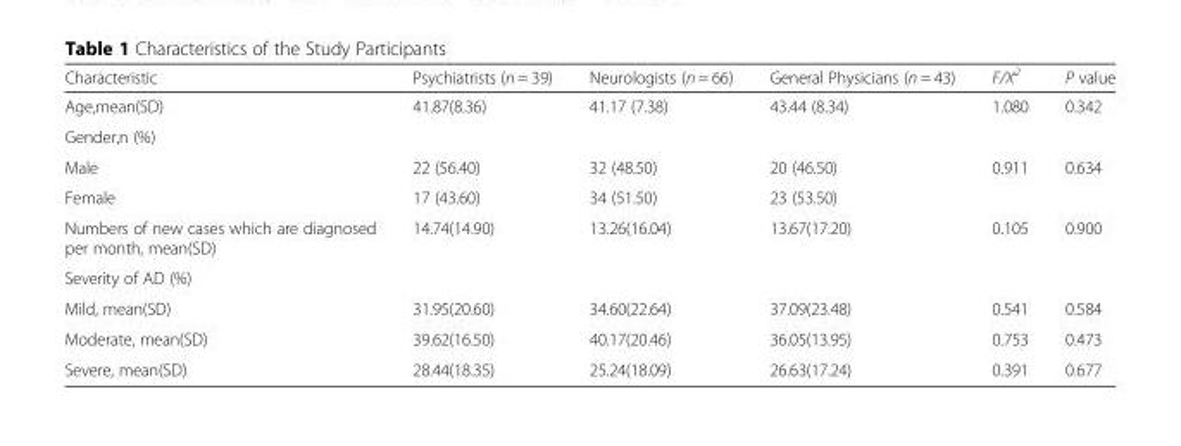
<table><thead><tr><td>Characteristic</td><td>Psychiatrists (n = 39)</td><td>Neurologists (n = 66)</td><td>General Physicians (n = 43)</td><td>F/X<sup>2</sup></td><td>P value</td></tr></thead><tbody><tr><td>Age,mean(SD)</td><td>41.87(8.36)</td><td>41.17 (7.38)</td><td>43.44 (8.34)</td><td>1.080</td><td>0.342</td></tr><tr><td colspan="6">Gender,n (%)</td></tr><tr><td>Male</td><td>22 (56.40)</td><td>32 (48.50)</td><td>20 (46.50)</td><td rowspan="2">0.911</td><td rowspan="2">0.634</td></tr><tr><td>Female</td><td>17 (43.60)</td><td>34 (51.50)</td><td>23 (53.50)</td></tr><tr><td>Numbers of new cases which are diagnosed per month, mean(SD)</td><td>14.74(14.90)</td><td>13.26(16.04)</td><td>13.67(17.20)</td><td>0.105</td><td>0.900</td></tr><tr><td colspan="6">Severity of AD (%)</td></tr><tr><td>Mild, mean(SD)</td><td>31.95(20.60)</td><td>34.60(22.64)</td><td>37.09(23.48)</td><td>0.541</td><td>0.584</td></tr><tr><td>Moderate, mean(SD)</td><td>39.62(16.50)</td><td>40.17(20.46)</td><td>36.05(13.95)</td><td>0.753</td><td>0.473</td></tr><tr><td>Severe, mean(SD)</td><td>28.44(18.35)</td><td>25.24(18.09)</td><td>26.63(17.24)</td><td>0.391</td><td>0.677</td></tr></tbody></table>